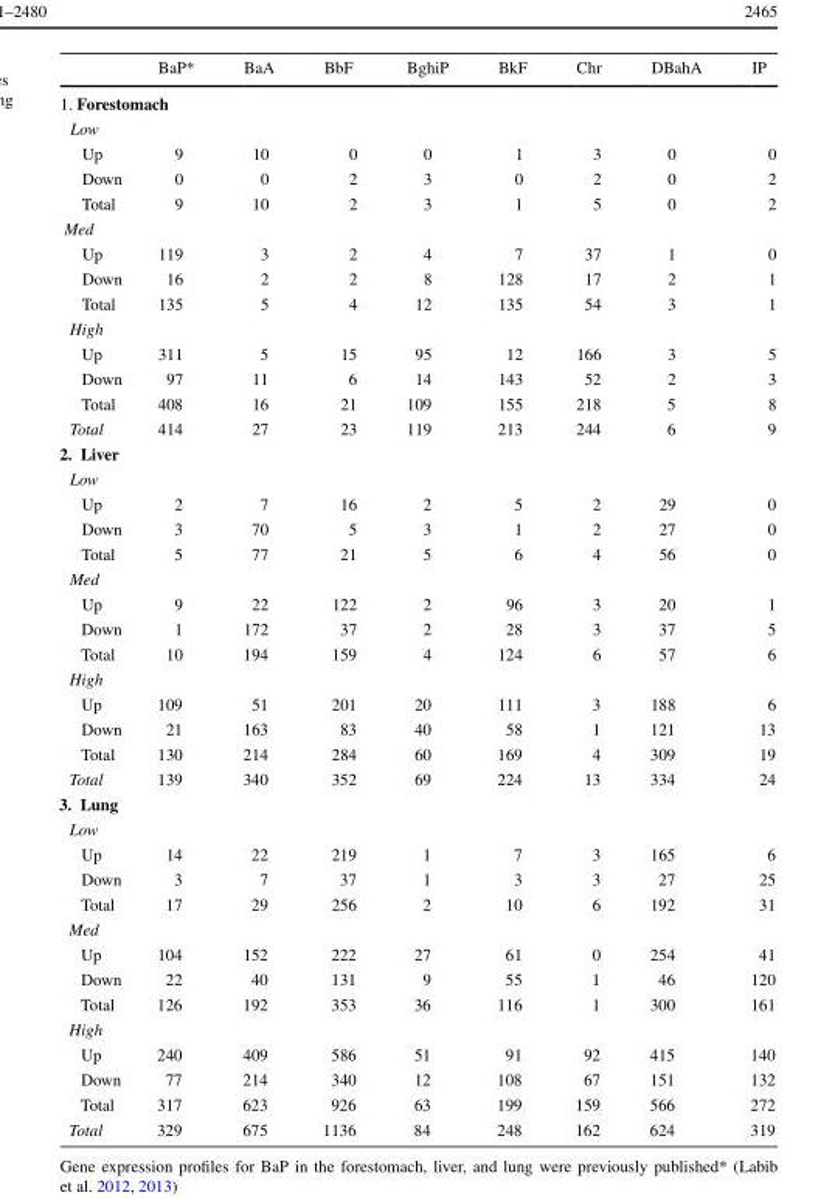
<table><thead><tr><td></td><td>BaP*</td><td>BaA</td><td>BbF</td><td>BghiP</td><td>BkF</td><td>Chr</td><td>DBahA</td><td>IP</td></tr></thead><tbody><tr><td colspan="9">1. Forestomach</td></tr><tr><td colspan="9">Low</td></tr><tr><td>Up</td><td>9</td><td>10</td><td>0</td><td>0</td><td>1</td><td>3</td><td>0</td><td>0</td></tr><tr><td>Down</td><td>0</td><td>0</td><td>2</td><td>3</td><td>0</td><td>2</td><td>0</td><td>2</td></tr><tr><td>Total</td><td>9</td><td>10</td><td>2</td><td>3</td><td>1</td><td>5</td><td>0</td><td>2</td></tr><tr><td colspan="9">Med</td></tr><tr><td>Up</td><td>119</td><td>3</td><td>2</td><td>4</td><td>7</td><td>37</td><td>1</td><td>0</td></tr><tr><td>Down</td><td>16</td><td>2</td><td>2</td><td>8</td><td>128</td><td>17</td><td>2</td><td>1</td></tr><tr><td>Total</td><td>135</td><td>5</td><td>4</td><td>12</td><td>135</td><td>54</td><td>3</td><td>1</td></tr><tr><td colspan="9">High</td></tr><tr><td>Up</td><td>311</td><td>5</td><td>15</td><td>95</td><td>12</td><td>166</td><td>3</td><td>5</td></tr><tr><td>Down</td><td>97</td><td>11</td><td>6</td><td>14</td><td>143</td><td>52</td><td>2</td><td>3</td></tr><tr><td>Total</td><td>408</td><td>16</td><td>21</td><td>109</td><td>155</td><td>218</td><td>5</td><td>8</td></tr><tr><td>Total</td><td>414</td><td>27</td><td>23</td><td>119</td><td>213</td><td>244</td><td>6</td><td>9</td></tr><tr><td colspan="9">2. Liver</td></tr><tr><td colspan="9">Low</td></tr><tr><td>Up</td><td>2</td><td>7</td><td>16</td><td>2</td><td>5</td><td>2</td><td>29</td><td>0</td></tr><tr><td>Down</td><td>3</td><td>70</td><td>5</td><td>3</td><td>1</td><td>2</td><td>27</td><td>0</td></tr><tr><td>Total</td><td>5</td><td>77</td><td>21</td><td>5</td><td>6</td><td>4</td><td>56</td><td>0</td></tr><tr><td colspan="9">Med</td></tr><tr><td>Up</td><td>9</td><td>22</td><td>122</td><td>2</td><td>96</td><td>3</td><td>20</td><td>1</td></tr><tr><td>Down</td><td>1</td><td>172</td><td>37</td><td>2</td><td>28</td><td>3</td><td>37</td><td>5</td></tr><tr><td>Total</td><td>10</td><td>194</td><td>159</td><td>4</td><td>124</td><td>6</td><td>57</td><td>6</td></tr><tr><td colspan="9">High</td></tr><tr><td>Up</td><td>109</td><td>51</td><td>201</td><td>20</td><td>111</td><td>3</td><td>188</td><td>6</td></tr><tr><td>Down</td><td>21</td><td>163</td><td>83</td><td>40</td><td>58</td><td>1</td><td>121</td><td>13</td></tr><tr><td>Total</td><td>130</td><td>214</td><td>284</td><td>60</td><td>169</td><td>4</td><td>309</td><td>19</td></tr><tr><td>Total</td><td>139</td><td>340</td><td>352</td><td>69</td><td>224</td><td>13</td><td>334</td><td>24</td></tr><tr><td colspan="9">3. Lung</td></tr><tr><td colspan="9">Low</td></tr><tr><td>Up</td><td>14</td><td>22</td><td>219</td><td>1</td><td>7</td><td>3</td><td>165</td><td>6</td></tr><tr><td>Down</td><td>3</td><td>7</td><td>37</td><td>1</td><td>3</td><td>3</td><td>27</td><td>25</td></tr><tr><td>Total</td><td>17</td><td>29</td><td>256</td><td>2</td><td>10</td><td>6</td><td>192</td><td>31</td></tr><tr><td colspan="9">Med</td></tr><tr><td>Up</td><td>104</td><td>152</td><td>222</td><td>27</td><td>61</td><td>0</td><td>254</td><td>41</td></tr><tr><td>Down</td><td>22</td><td>40</td><td>131</td><td>9</td><td>55</td><td>1</td><td>46</td><td>120</td></tr><tr><td>Total</td><td>126</td><td>192</td><td>353</td><td>36</td><td>116</td><td>1</td><td>300</td><td>161</td></tr><tr><td colspan="9">High</td></tr><tr><td>Up</td><td>240</td><td>409</td><td>586</td><td>51</td><td>91</td><td>92</td><td>415</td><td>140</td></tr><tr><td>Down</td><td>77</td><td>214</td><td>340</td><td>12</td><td>108</td><td>67</td><td>151</td><td>132</td></tr><tr><td>Total</td><td>317</td><td>623</td><td>926</td><td>63</td><td>199</td><td>159</td><td>566</td><td>272</td></tr><tr><td>Total</td><td>329</td><td>675</td><td>1136</td><td>84</td><td>248</td><td>162</td><td>624</td><td>319</td></tr></tbody></table>